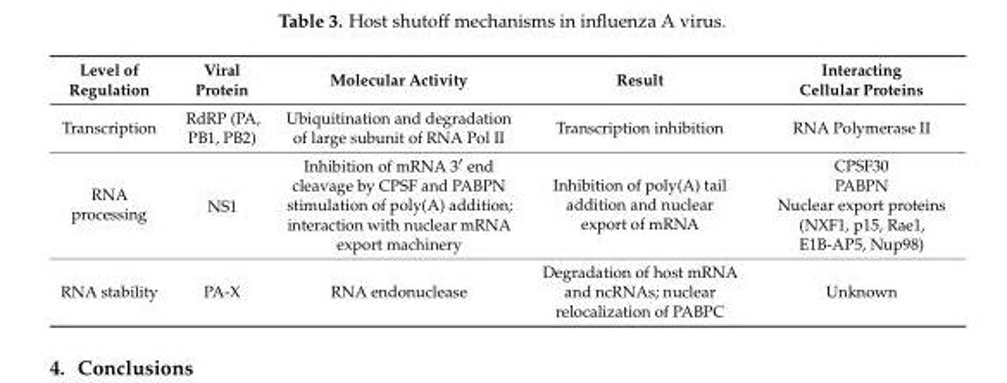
<table><thead><tr><td>Level of Regulation</td><td>Viral Protein</td><td>Molecular Activity</td><td>Result</td><td>Interacting Cellular Proteins</td></tr></thead><tbody><tr><td>Transcription</td><td>RdRP (PA, PB1, PB2)</td><td>Ubiquitination and degradation of large subunit of RNA Pol II</td><td>Transcription inhibition</td><td>RNA Polymerase II</td></tr><tr><td rowspan="3">RNA processing</td><td rowspan="3">NS1</td><td rowspan="3">Inhibition of mRNA 3′ end cleavage by CPSF and PABPN stimulation of poly(A) addition; interaction with nuclear mRNA export machinery</td><td rowspan="3">Inhibition of poly(A) tail addition and nuclear export of mRNA</td><td>CPSF30</td></tr><tr><td>PABPN</td></tr><tr><td>Nuclear export proteins (NXF1, p15, Rae1, E1B-AP5, Nup98)</td></tr><tr><td>RNA stability</td><td>PA-X</td><td>RNA endonuclease</td><td>Degradation of host mRNA and ncRNAs; nuclear relocalization of PABPC</td><td>Unknown</td></tr></tbody></table>